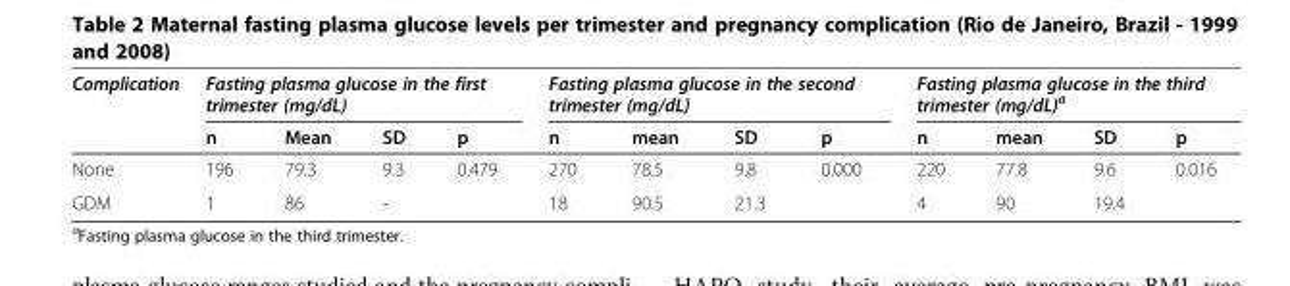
<table><thead><tr><td rowspan="2">Complication</td><td colspan="4">Fasting plasma glucose in the first trimester (mg/dL)</td><td colspan="4">Fasting plasma glucose in the second trimester (mg/dL)</td><td colspan="4">Fasting plasma glucose in the third trimester (mg/dL)<sup>a</sup></td></tr><tr><td>n</td><td>Mean</td><td>SD</td><td>p</td><td>n</td><td>mean</td><td>SD</td><td>p</td><td>n</td><td>mean</td><td>SD</td><td>p</td></tr></thead><tbody><tr><td>None</td><td>196</td><td>79.3</td><td>9.3</td><td rowspan="2">0.479</td><td>270</td><td>78.5</td><td>9.8</td><td rowspan="2">0.000</td><td>220</td><td>77.8</td><td>9.6</td><td rowspan="2">0.016</td></tr><tr><td>GDM</td><td>1</td><td>86</td><td>-</td><td>18</td><td>90.5</td><td>21.3</td><td>4</td><td>90</td><td>19.4</td></tr></tbody></table>